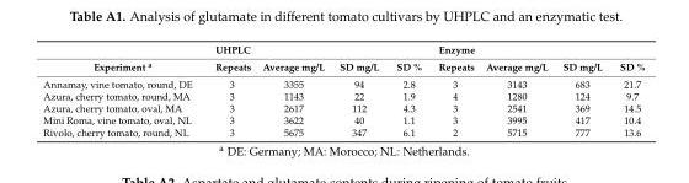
<table><thead><tr><td rowspan="2">Experiment <sup>a</sup></td><td rowspan="2">UHPLC Repeats</td><td rowspan="2">Average mg/L</td><td rowspan="2">SD mg/L</td><td rowspan="2">SD %</td><td rowspan="2">Enzyme Repeats</td><td rowspan="2">Average mg/L</td><td rowspan="2">SD mg/L</td><td rowspan="2">SD %</td></tr><tr></tr></thead><tbody><tr><td>Annamay, vine tomato, round, DE</td><td>3</td><td>3355</td><td>94</td><td>2.8</td><td>3</td><td>3143</td><td>683</td><td>21.7</td></tr><tr><td>Azura, cherry tomato, round, MA</td><td>3</td><td>1143</td><td>22</td><td>1.9</td><td>4</td><td>1280</td><td>124</td><td>9.7</td></tr><tr><td>Azura, cherry tomato, oval, MA</td><td>3</td><td>2617</td><td>112</td><td>4.3</td><td>3</td><td>2541</td><td>369</td><td>14.5</td></tr><tr><td>Mini Roma, vine tomato, oval, NL</td><td>3</td><td>3622</td><td>40</td><td>1.1</td><td>3</td><td>3995</td><td>417</td><td>10.4</td></tr><tr><td>Rivolo, cherry tomato, round, NL</td><td>3</td><td>5675</td><td>347</td><td>6.1</td><td>2</td><td>5715</td><td>777</td><td>13.6</td></tr></tbody></table>